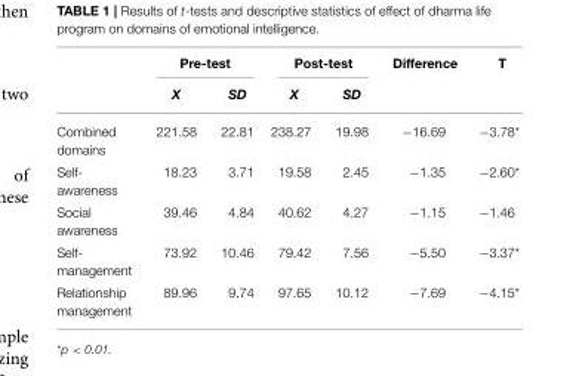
<table><thead><tr><td rowspan="2"></td><td colspan="2">Pre-test</td><td colspan="2">Post-test</td><td rowspan="2">Difference</td><td rowspan="2">T</td></tr><tr><td>X</td><td>SD</td><td>X</td><td>SD</td></tr></thead><tbody><tr><td>Combined domains</td><td>221.58</td><td>22.81</td><td>238.27</td><td>19.98</td><td>−16.69</td><td>−3.78*</td></tr><tr><td>Self- awareness</td><td>18.23</td><td>3.71</td><td>19.58</td><td>2.45</td><td>−1.35</td><td>−2.60*</td></tr><tr><td>Social awareness</td><td>39.46</td><td>4.84</td><td>40.62</td><td>4.27</td><td>−1.15</td><td>−1.46</td></tr><tr><td>Self- management</td><td>73.92</td><td>10.46</td><td>79.42</td><td>7.56</td><td>−5.50</td><td>−3.37*</td></tr><tr><td>Relationship management</td><td>89.96</td><td>9.74</td><td>97.65</td><td>10.12</td><td>−7.69</td><td>−4.15*</td></tr></tbody></table>